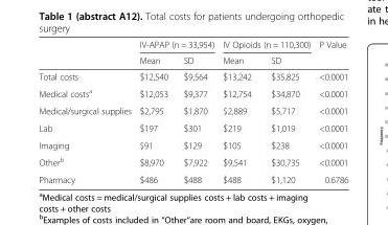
<table><thead><tr><td rowspan="2"></td><td colspan="2">IV-APAP (n = 33,954)</td><td colspan="2">IV Opioids (n = 110,300)</td><td rowspan="2">P Value</td></tr><tr><td>Mean</td><td>SD</td><td>Mean</td><td>SD</td></tr></thead><tbody><tr><td>Total costs</td><td>$12,540</td><td>$9,564</td><td>$13,242</td><td>$35,825</td><td>&lt;0.0001</td></tr><tr><td>Medical costs<sup>a</sup></td><td>$12,053</td><td>$9,377</td><td>$12,754</td><td>$34,870</td><td>&lt;0.0001</td></tr><tr><td>Medical/surgical supplies</td><td>$2,795</td><td>$1,870</td><td>$2,889</td><td>$5,717</td><td>&lt;0.0001</td></tr><tr><td>Lab</td><td>$197</td><td>$301</td><td>$219</td><td>$1,019</td><td>&lt;0.0001</td></tr><tr><td>Imaging</td><td>$91</td><td>$129</td><td>$105</td><td>$238</td><td>&lt;0.0001</td></tr><tr><td>Other<sup>b</sup></td><td>$8,970</td><td>$7,922</td><td>$9,541</td><td>$30,735</td><td>&lt;0.0001</td></tr><tr><td>Pharmacy</td><td>$486</td><td>$488</td><td>$488</td><td>$1,120</td><td>0.6786</td></tr></tbody></table>